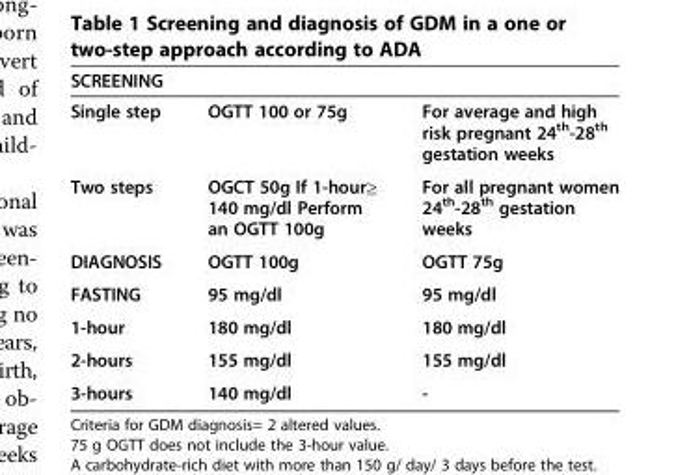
<table><thead><tr><td>SCREENING</td><td></td><td></td></tr></thead><tbody><tr><td>Single step</td><td>OGTT 100 or 75g</td><td>For average and high risk pregnant 24th-28th gestation weeks</td></tr><tr><td>Two steps</td><td>OGCT 50g If 1-hour≥ 140 mg/dl Perform an OGTT 100g</td><td>For all pregnant women 24th-28th gestation weeks</td></tr><tr><td>DIAGNOSIS</td><td>OGTT 100g</td><td>OGTT 75g</td></tr><tr><td>FASTING</td><td>95 mg/dl</td><td>95 mg/dl</td></tr><tr><td>1-hour</td><td>180 mg/dl</td><td>180 mg/dl</td></tr><tr><td>2-hours</td><td>155 mg/dl</td><td>155 mg/dl</td></tr><tr><td>3-hours</td><td>140 mg/dl</td><td>-</td></tr></tbody></table>